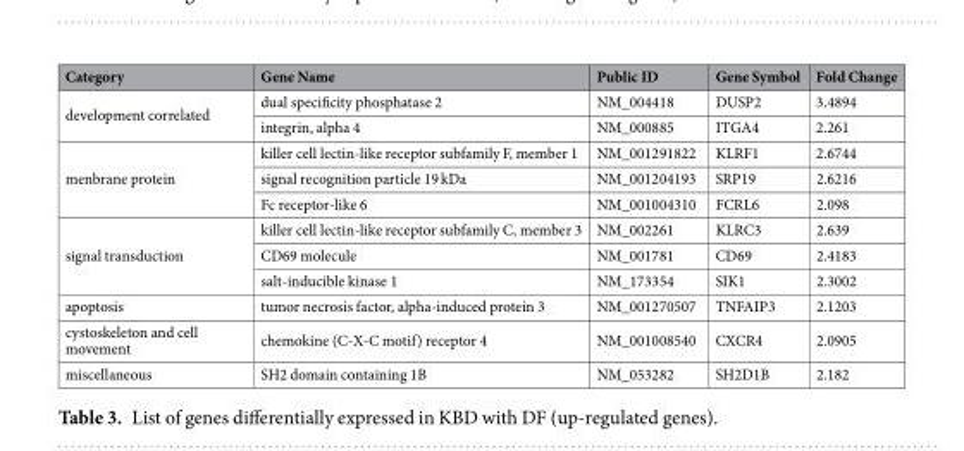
<table><thead><tr><td>Category</td><td>Gene Name</td><td>Public ID</td><td>Gene Symbol</td><td>Fold Change</td></tr></thead><tbody><tr><td rowspan="2">development correlated</td><td>dual specificity phosphatase 2</td><td>NM_004418</td><td>DUSP2</td><td>3.4894</td></tr><tr><td>integrin, alpha 4</td><td>NM_000885</td><td>ITGA4</td><td>2.261</td></tr><tr><td rowspan="3">menbrane protein</td><td>killer cell lectin-like receptor subfamily F, member 1</td><td>NM_001291822</td><td>KLRF1</td><td>2.6744</td></tr><tr><td>signal recognition particle 19 kDa</td><td>NM_001204193</td><td>SRP19</td><td>2.6216</td></tr><tr><td>Fc receptor-like 6</td><td>NM_001004310</td><td>FCRL6</td><td>2.098</td></tr><tr><td rowspan="3">signal transduction</td><td>killer cell lectin-like receptor subfamily C, member 3</td><td>NM_002261</td><td>KLRC3</td><td>2.639</td></tr><tr><td>CD69 molecule</td><td>NM_001781</td><td>CD69</td><td>2.4183</td></tr><tr><td>salt-inducible kinase 1</td><td>NM_173354</td><td>SIK1</td><td>2.3002</td></tr><tr><td>apoptosis</td><td>tumor necrosis factor, alpha-induced protein 3</td><td>NM_001270507</td><td>TNFAIP3</td><td>2.1203</td></tr><tr><td>cystoskeleton and cell movement</td><td>chemokine (C-X-C motif) receptor 4</td><td>NM_001008540</td><td>CXCR4</td><td>2.0905</td></tr><tr><td>miscellaneous</td><td>SH2 domain containing 1B</td><td>NM_053282</td><td>SH2D1B</td><td>2.182</td></tr></tbody></table>